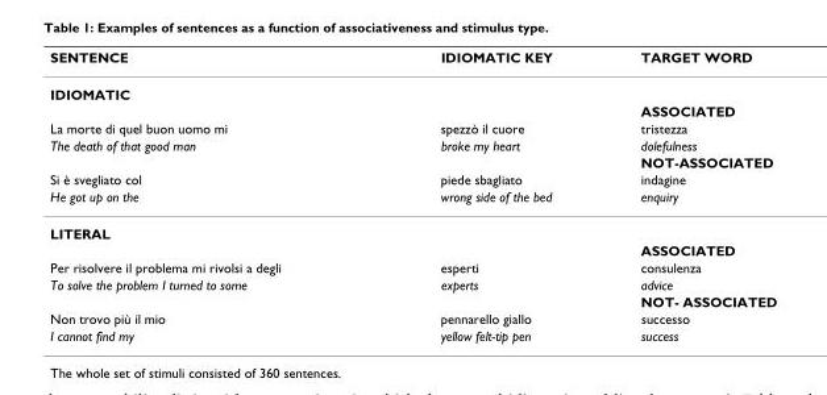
<table><thead><tr><td>SENTENCE</td><td>IDIOMATIC KEY</td><td>TARGET WORD</td></tr></thead><tbody><tr><td colspan="3">IDIOMATIC</td></tr><tr><td></td><td></td><td>ASSOCIATED</td></tr><tr><td>La morte di quel buon uomo mi</td><td>spezzò il cuore</td><td>tristezza</td></tr><tr><td rowspan="2">The death of that good man</td><td>broke my heart</td><td>dolefulness</td></tr><tr><td></td><td>NOT-ASSOCIATED</td></tr><tr><td>Si è svegliato col</td><td>piede sbagliato</td><td>indagine</td></tr><tr><td>He got up on the</td><td>wrong side of the bed</td><td>enquiry</td></tr><tr><td colspan="3">LITERAL</td></tr><tr><td></td><td></td><td>ASSOCIATED</td></tr><tr><td>Per risolvere il problema mi rivolsi a degli</td><td>esperti</td><td>consulenza</td></tr><tr><td rowspan="2">To solve the problem I turned to some</td><td>experts</td><td>advice</td></tr><tr><td></td><td>NOT- ASSOCIATED</td></tr><tr><td>Non trovo più il mio</td><td>pennarello giallo</td><td>successo</td></tr><tr><td>I cannot find my</td><td>yellow felt-tip pen</td><td>success</td></tr></tbody></table>